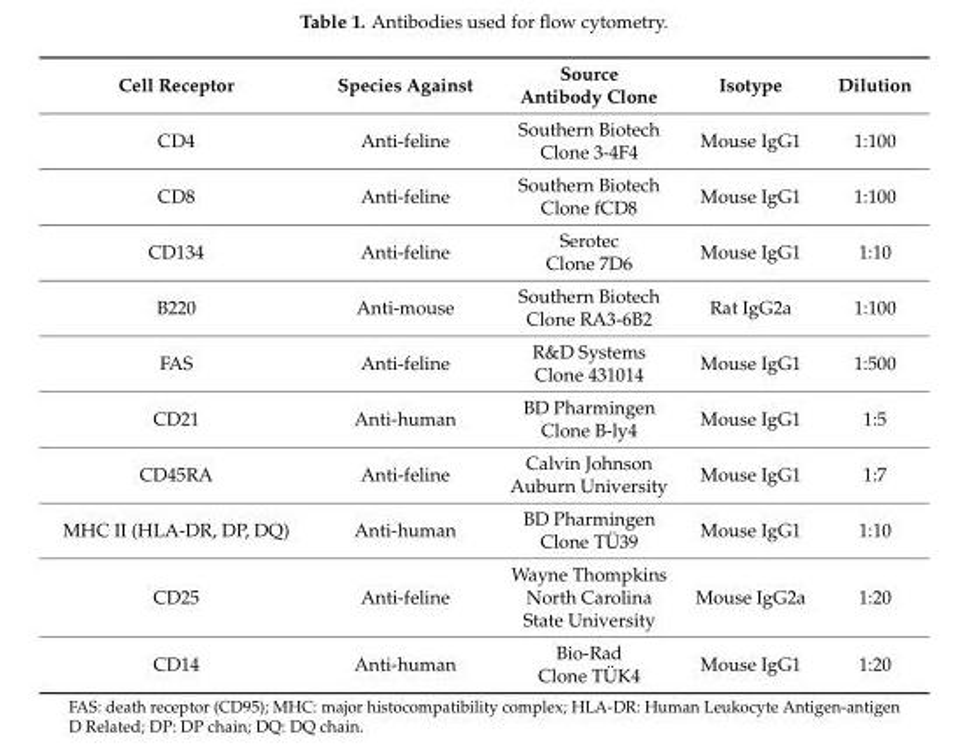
<table><thead><tr><td>Cell Receptor</td><td>Species Against</td><td>Source Antibody Clone</td><td>Isotype</td><td>Dilution</td></tr></thead><tbody><tr><td>CD4</td><td>Anti-feline</td><td>Southern Biotech Clone 3-4F4</td><td>Mouse IgG1</td><td>1:100</td></tr><tr><td>CD8</td><td>Anti-feline</td><td>Southern Biotech Clone fCD8</td><td>Mouse IgG1</td><td>1:100</td></tr><tr><td>CD134</td><td>Anti-feline</td><td>Serotec Clone 7D6</td><td>Mouse IgG1</td><td>1:10</td></tr><tr><td>B220</td><td>Anti-mouse</td><td>Southern Biotech Clone RA3-6B2</td><td>Rat IgG2a</td><td>1:100</td></tr><tr><td>FAS</td><td>Anti-feline</td><td>R&amp;D Systems Clone 431014</td><td>Mouse IgG1</td><td>1:500</td></tr><tr><td>CD21</td><td>Anti-human</td><td>BD Pharmingen Clone B-ly4</td><td>Mouse IgG1</td><td>1:5</td></tr><tr><td>CD45RA</td><td>Anti-feline</td><td>Calvin Johnson Auburn University</td><td>Mouse IgG1</td><td>1:7</td></tr><tr><td>MHC II (HLA-DR, DP, DQ)</td><td>Anti-human</td><td>BD Pharmingen Clone TÜ39</td><td>Mouse IgG1</td><td>1:10</td></tr><tr><td>CD25</td><td>Anti-feline</td><td>Wayne Thompkins North Carolina State University</td><td>Mouse IgG2a</td><td>1:20</td></tr><tr><td>CD14</td><td>Anti-human</td><td>Bio-Rad Clone TÜK4</td><td>Mouse IgG1</td><td>1:20</td></tr></tbody></table>